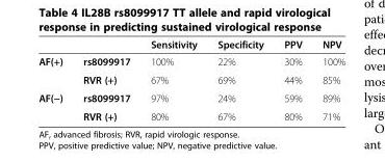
<table><thead><tr><td></td><td></td><td>Sensitivity</td><td>Specificity</td><td>PPV</td><td>NPV</td></tr></thead><tbody><tr><td rowspan="2">AF(+)</td><td>rs8099917</td><td>100%</td><td>22%</td><td>30%</td><td>100%</td></tr><tr><td>RVR (+)</td><td>67%</td><td>69%</td><td>44%</td><td>85%</td></tr><tr><td rowspan="2">AF(−)</td><td>rs8099917</td><td>97%</td><td>24%</td><td>59%</td><td>89%</td></tr><tr><td>RVR (+)</td><td>80%</td><td>67%</td><td>80%</td><td>71%</td></tr></tbody></table>